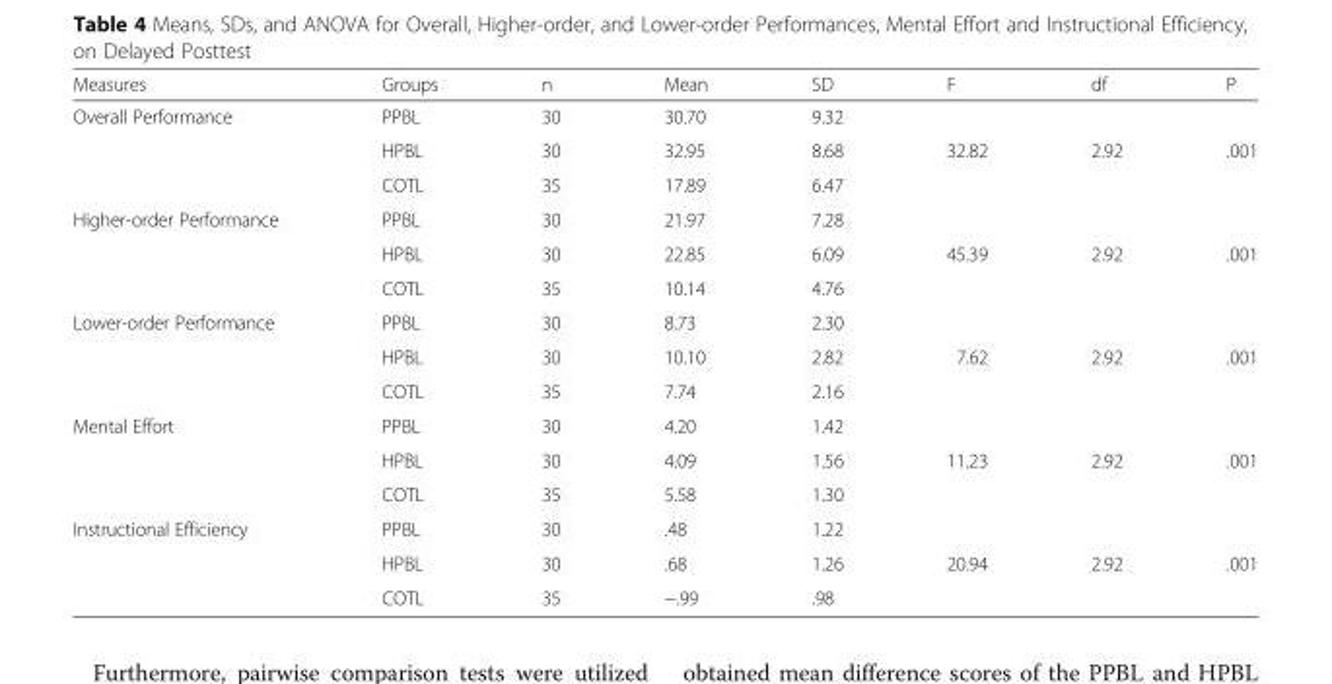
<table><thead><tr><td>Measures</td><td>Groups</td><td>n</td><td>Mean</td><td>SD</td><td>F</td><td>df</td><td>P</td></tr></thead><tbody><tr><td rowspan="3">Overall Performance</td><td>PPBL</td><td>30</td><td>30.70</td><td>9.32</td><td></td><td></td><td></td></tr><tr><td>HPBL</td><td>30</td><td>32.95</td><td>8.68</td><td>32.82</td><td>2.92</td><td>.001</td></tr><tr><td>COTL</td><td>35</td><td>17.89</td><td>6.47</td><td></td><td></td><td></td></tr><tr><td rowspan="3">Higher-order Performance</td><td>PPBL</td><td>30</td><td>21.97</td><td>7.28</td><td></td><td></td><td></td></tr><tr><td>HPBL</td><td>30</td><td>22.85</td><td>6.09</td><td>45.39</td><td>2.92</td><td>.001</td></tr><tr><td>COTL</td><td>35</td><td>10.14</td><td>4.76</td><td></td><td></td><td></td></tr><tr><td rowspan="3">Lower-order Performance</td><td>PPBL</td><td>30</td><td>8.73</td><td>2.30</td><td></td><td></td><td></td></tr><tr><td>HPBL</td><td>30</td><td>10.10</td><td>2.82</td><td>7.62</td><td>2.92</td><td>.001</td></tr><tr><td>COTL</td><td>35</td><td>7.74</td><td>2.16</td><td></td><td></td><td></td></tr><tr><td rowspan="3">Mental Effort</td><td>PPBL</td><td>30</td><td>4.20</td><td>1.42</td><td></td><td></td><td></td></tr><tr><td>HPBL</td><td>30</td><td>4.09</td><td>1.56</td><td>11.23</td><td>2.92</td><td>.001</td></tr><tr><td>COTL</td><td>35</td><td>5.58</td><td>1.30</td><td></td><td></td><td></td></tr><tr><td rowspan="3">Instructional Efficiency</td><td>PPBL</td><td>30</td><td>.48</td><td>1.22</td><td></td><td></td><td></td></tr><tr><td>HPBL</td><td>30</td><td>.68</td><td>1.26</td><td>20.94</td><td>2.92</td><td>.001</td></tr><tr><td>COTL</td><td>35</td><td>−.99</td><td>.98</td><td></td><td></td><td></td></tr></tbody></table>